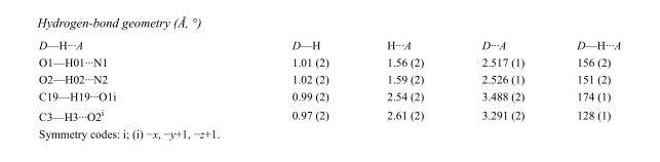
<table><tbody><tr><td>D—H···A</td><td>D—H</td><td>H···A</td><td>D···A</td><td>D—H···A</td></tr><tr><td>O1—H01···N1</td><td>1.01 (2)</td><td>1.56 (2)</td><td>2.517 (1)</td><td>156 (2)</td></tr><tr><td>O2—H02···N2</td><td>1.02 (2)</td><td>1.59 (2)</td><td>2.526 (1)</td><td>151 (2)</td></tr><tr><td>C19—H19···O1i</td><td>0.99 (2)</td><td>2.54 (2)</td><td>3.488 (2)</td><td>174 (1)</td></tr><tr><td>C3—H3···O2<sup>i</sup></td><td>0.97 (2)</td><td>2.61 (2)</td><td>3.291 (2)</td><td>128 (1)</td></tr></tbody></table>